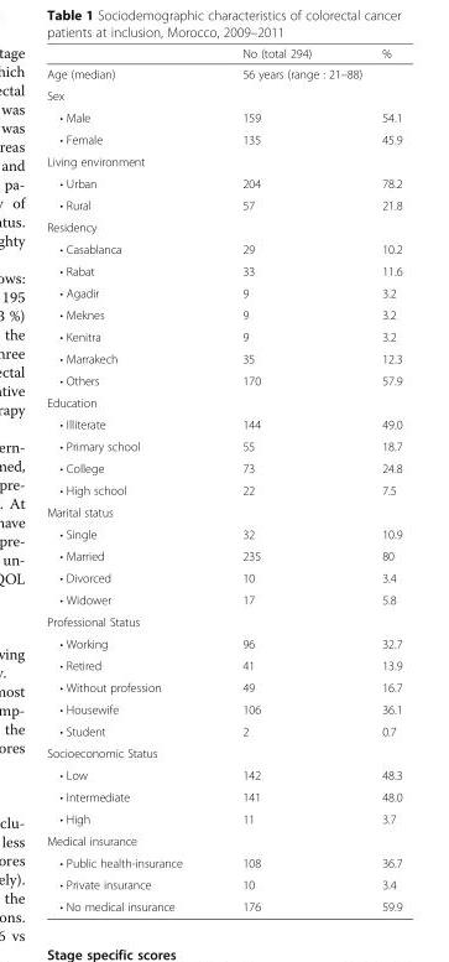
<table><thead><tr><td></td><td>No (total 294)</td><td>%</td></tr></thead><tbody><tr><td>Age (median)</td><td colspan="2">56 years (range : 21–88)</td></tr><tr><td colspan="3">Sex</td></tr><tr><td>• Male</td><td>159</td><td>54.1</td></tr><tr><td>• Female</td><td>135</td><td>45.9</td></tr><tr><td colspan="3">Living environment</td></tr><tr><td>• Urban</td><td>204</td><td>78.2</td></tr><tr><td>• Rural</td><td>57</td><td>21.8</td></tr><tr><td colspan="3">Residency</td></tr><tr><td>• Casablanca</td><td>29</td><td>10.2</td></tr><tr><td>• Rabat</td><td>33</td><td>11.6</td></tr><tr><td>• Agadir</td><td>9</td><td>3.2</td></tr><tr><td>• Meknes</td><td>9</td><td>3.2</td></tr><tr><td>• Kenitra</td><td>9</td><td>3.2</td></tr><tr><td>• Marrakech</td><td>35</td><td>12.3</td></tr><tr><td>• Others</td><td>170</td><td>57.9</td></tr><tr><td colspan="3">Education</td></tr><tr><td>• Illiterate</td><td>144</td><td>49.0</td></tr><tr><td>• Primary school</td><td>55</td><td>18.7</td></tr><tr><td>• College</td><td>73</td><td>24.8</td></tr><tr><td>• High school</td><td>22</td><td>7.5</td></tr><tr><td colspan="3">Marital status</td></tr><tr><td>• Single</td><td>32</td><td>10.9</td></tr><tr><td>• Married</td><td>235</td><td>80</td></tr><tr><td>• Divorced</td><td>10</td><td>3.4</td></tr><tr><td>• Widower</td><td>17</td><td>5.8</td></tr><tr><td colspan="3">Professional Status</td></tr><tr><td>• Working</td><td>96</td><td>32.7</td></tr><tr><td>• Retired</td><td>41</td><td>13.9</td></tr><tr><td>• Without profession</td><td>49</td><td>16.7</td></tr><tr><td>• Housewife</td><td>106</td><td>36.1</td></tr><tr><td>• Student</td><td>2</td><td>0.7</td></tr><tr><td colspan="3">Socioeconomic Status</td></tr><tr><td>• Low</td><td>142</td><td>48.3</td></tr><tr><td>• Intermediate</td><td>141</td><td>48.0</td></tr><tr><td>• High</td><td>11</td><td>3.7</td></tr><tr><td colspan="3">Medical insurance</td></tr><tr><td>• Public health-insurance</td><td>108</td><td>36.7</td></tr><tr><td>• Private insurance</td><td>10</td><td>3.4</td></tr><tr><td>• No medical insurance</td><td>176</td><td>59.9</td></tr></tbody></table>